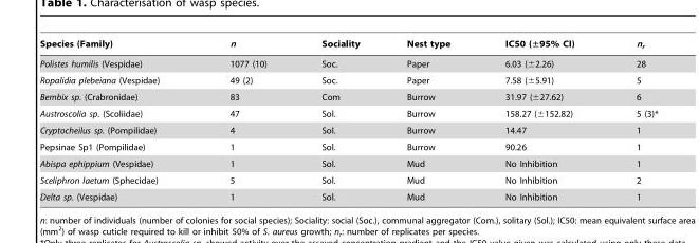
<table><thead><tr><td>Species (Family)</td><td>n</td><td>Sociality</td><td>Nest type</td><td>IC50 (±95% CI)</td><td>n<sub>r</sub></td></tr></thead><tbody><tr><td>Polistes humilis (Vespidae)</td><td>1077 (10)</td><td>Soc.</td><td>Paper</td><td>6.03 (±2.26)</td><td>28</td></tr><tr><td>Ropalidia plebeiana (Vespidae)</td><td>49 (2)</td><td>Soc.</td><td>Paper</td><td>7.58 (±5.91)</td><td>5</td></tr><tr><td>Bembix sp. (Crabronidae)</td><td>83</td><td>Com</td><td>Burrow</td><td>31.97 (±27.62)</td><td>6</td></tr><tr><td>Austroscolia sp. (Scoliidae)</td><td>47</td><td>Sol.</td><td>Burrow</td><td>158.27 (±152.82)</td><td>5 (3)*</td></tr><tr><td>Cryptocheilus sp. (Pompilidae)</td><td>4</td><td>Sol.</td><td>Burrow</td><td>14.47</td><td>1</td></tr><tr><td>Pepsinae Sp1 (Pompilidae)</td><td>1</td><td>Sol.</td><td>Burrow</td><td>90.26</td><td>1</td></tr><tr><td>Abispa ephippium (Vespidae)</td><td>1</td><td>Sol.</td><td>Mud</td><td>No Inhibition</td><td>1</td></tr><tr><td>Sceliphron laetum (Sphecidae)</td><td>5</td><td>Sol.</td><td>Mud</td><td>No Inhibition</td><td>2</td></tr><tr><td>Delta sp. (Vespidae)</td><td>1</td><td>Sol.</td><td>Mud</td><td>No Inhibition</td><td>1</td></tr></tbody></table>